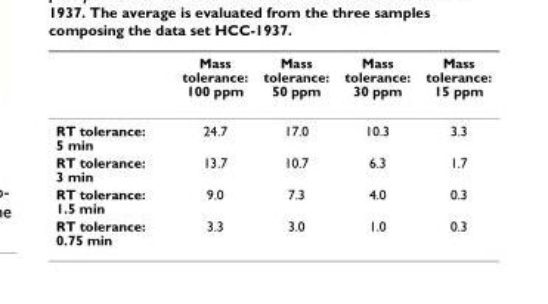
<table><thead><tr><td></td><td>Mass tolerance: 100 ppm</td><td>Mass tolerance: 50 ppm</td><td>Mass tolerance: 30 ppm</td><td>Mass tolerance: 15 ppm</td></tr></thead><tbody><tr><td>RT tolerance: 5 min</td><td>24.7</td><td>17.0</td><td>10.3</td><td>3.3</td></tr><tr><td>RT tolerance: 3 min</td><td>13.7</td><td>10.7</td><td>6.3</td><td>1.7</td></tr><tr><td>RT tolerance: 1.5 min</td><td>9.0</td><td>7.3</td><td>4.0</td><td>0.3</td></tr><tr><td>RT tolerance: 0.75 min</td><td>3.3</td><td>3.0</td><td>1.0</td><td>0.3</td></tr></tbody></table>